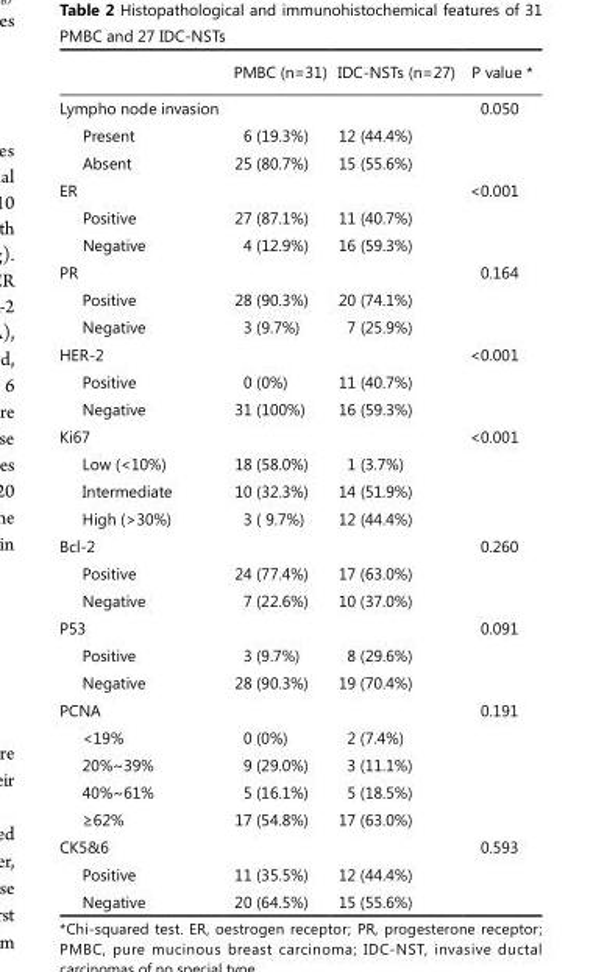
<table><thead><tr><td></td><td>PMBC (n=31)</td><td>IDC-nSTs (n=27)</td><td>P value *</td></tr></thead><tbody><tr><td>Lympho node invasion</td><td></td><td></td><td>0.050</td></tr><tr><td>Present</td><td>6 (19.3%)</td><td>12 (44.4%)</td><td rowspan="2"></td></tr><tr><td>absent</td><td>25 (80.7%)</td><td>15 (55.6%)</td></tr><tr><td>ER</td><td></td><td></td><td>&lt;0.001</td></tr><tr><td>Positive</td><td>27 (87.1%)</td><td>11 (40.7%)</td><td rowspan="2"></td></tr><tr><td>negative</td><td>4 (12.9%)</td><td>16 (59.3%)</td></tr><tr><td>PR</td><td></td><td></td><td>0.164</td></tr><tr><td>Positive</td><td>28 (90.3%)</td><td>20 (74.1%)</td><td rowspan="2"></td></tr><tr><td>negative</td><td>3 (9.7%)</td><td>7 (25.9%)</td></tr><tr><td>HER-2</td><td></td><td></td><td>&lt;0.001</td></tr><tr><td>Positive</td><td>0 (0%)</td><td>11 (40.7%)</td><td rowspan="2"></td></tr><tr><td>negative</td><td>31 (100%)</td><td>16 (59.3%)</td></tr><tr><td>Ki67</td><td></td><td></td><td>&lt;0.001</td></tr><tr><td>Low (&lt;10%)</td><td>18 (58.0%)</td><td>1 (3.7%)</td><td rowspan="2"></td></tr><tr><td>Intermediate</td><td>10 (32.3%)</td><td>14 (51.9%)</td></tr><tr><td>High (&gt;30%)</td><td>3 ( 9.7%)</td><td>12 (44.4%)</td><td></td></tr><tr><td>Bcl-2</td><td></td><td></td><td>0.260</td></tr><tr><td>Positive</td><td>24 (77.4%)</td><td>17 (63.0%)</td><td rowspan="2"></td></tr><tr><td>negative</td><td>7 (22.6%)</td><td>10 (37.0%)</td></tr><tr><td>P53</td><td></td><td></td><td>0.091</td></tr><tr><td>Positive</td><td>3 (9.7%)</td><td>8 (29.6%)</td><td rowspan="2"></td></tr><tr><td>negative</td><td>28 (90.3%)</td><td>19 (70.4%)</td></tr><tr><td>PCna</td><td></td><td></td><td>0.191</td></tr><tr><td>&lt;19%</td><td>0 (0%)</td><td>2 (7.4%)</td><td rowspan="4"></td></tr><tr><td>20%~39%</td><td>9 (29.0%)</td><td>3 (11.1%)</td></tr><tr><td>40%~61%</td><td>5 (16.1%)</td><td>5 (18.5%)</td></tr><tr><td>≥62%</td><td>17 (54.8%)</td><td>17 (63.0%)</td></tr><tr><td>CK5&amp;6</td><td></td><td></td><td>0.593</td></tr><tr><td>Positive</td><td>11 (35.5%)</td><td>12 (44.4%)</td><td rowspan="2"></td></tr><tr><td>negative</td><td>20 (64.5%)</td><td>15 (55.6%)</td></tr></tbody></table>